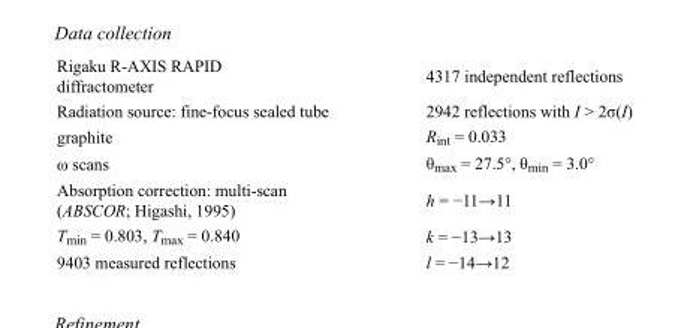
<table><tbody><tr><td>Rigaku R-AXIS RAPID diffractometer</td><td>4317 independent reflections</td></tr><tr><td>Radiation source: fine-focus sealed tube</td><td>2942 reflections with I &gt; 2σ(I)</td></tr><tr><td>graphite</td><td>R<sub>int</sub> = 0.033</td></tr><tr><td>ω scans</td><td>θ<sub>max</sub> = 27.5°, θ<sub>min</sub> = 3.0°</td></tr><tr><td>Absorption correction: multi-scan (ABSCOR; Higashi, 1995)</td><td>h = −11→11</td></tr><tr><td>T<sub>min</sub> = 0.803, T<sub>max</sub> = 0.840</td><td>k = −13→13</td></tr><tr><td>9403 measured reflections</td><td>l = −14→12</td></tr></tbody></table>